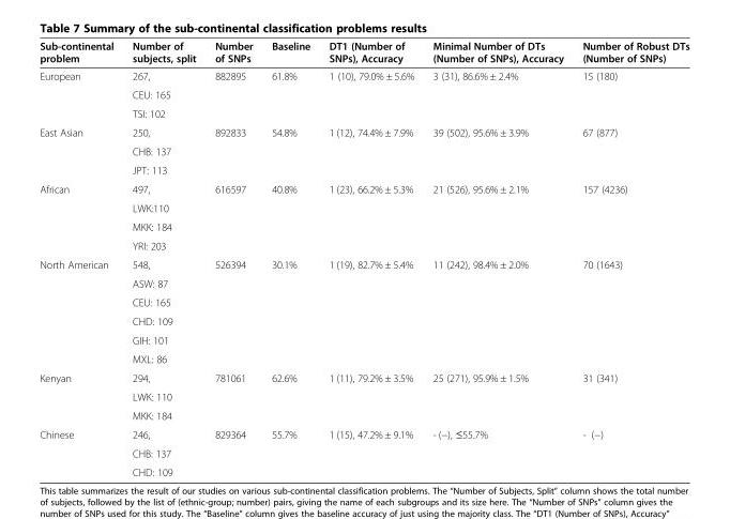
<table><thead><tr><td>Sub-continental problem</td><td>Number of subjects, split</td><td>Number of SNPs</td><td>Baseline</td><td>DT1 (Number of SNPs), Accuracy</td><td>Minimal Number of DTs (Number of SNPs), Accuracy</td><td>Number of Robust DTs (Number of SNPs)</td></tr></thead><tbody><tr><td rowspan="3">European</td><td>267,</td><td rowspan="3">882895</td><td rowspan="3">61.8%</td><td rowspan="3">1 (10), 79.0% ± 5.6%</td><td rowspan="3">3 (31), 86.6% ± 2.4%</td><td rowspan="3">15 (180)</td></tr><tr><td>CEU: 165</td></tr><tr><td>TSI: 102</td></tr><tr><td rowspan="3">East Asian</td><td>250,</td><td rowspan="3">892833</td><td rowspan="3">54.8%</td><td rowspan="3">1 (12), 74.4% ± 7.9%</td><td rowspan="3">39 (502), 95.6% ± 3.9%</td><td rowspan="3">67 (877)</td></tr><tr><td>CHB: 137</td></tr><tr><td>JPT: 113</td></tr><tr><td rowspan="4">African</td><td>497,</td><td rowspan="4">616597</td><td rowspan="4">40.8%</td><td rowspan="4">1 (23), 66.2% ± 5.3%</td><td rowspan="4">21 (526), 95.6% ± 2.1%</td><td rowspan="4">157 (4236)</td></tr><tr><td>LWK:110</td></tr><tr><td>MKK: 184</td></tr><tr><td>YRI: 203</td></tr><tr><td rowspan="6">North American</td><td>548,</td><td rowspan="6">526394</td><td rowspan="6">30.1%</td><td rowspan="6">1 (19), 82.7% ± 5.4%</td><td rowspan="6">11 (242), 98.4% ± 2.0%</td><td rowspan="6">70 (1643)</td></tr><tr><td>ASW: 87</td></tr><tr><td>CEU: 165</td></tr><tr><td>CHD: 109</td></tr><tr><td>GIH: 101</td></tr><tr><td>MXL: 86</td></tr><tr><td rowspan="3">Kenyan</td><td>294,</td><td rowspan="3">781061</td><td rowspan="3">62.6%</td><td rowspan="3">1 (11), 79.2% ± 3.5%</td><td rowspan="3">25 (271), 95.9% ± 1.5%</td><td rowspan="3">31 (341)</td></tr><tr><td>LWK: 110</td></tr><tr><td>MKK: 184</td></tr><tr><td rowspan="3">Chinese</td><td>246,</td><td rowspan="2">829364</td><td rowspan="2">55.7%</td><td rowspan="2">1 (15), 47.2% ± 9.1%</td><td rowspan="2">- (−), ≤55.7%</td><td rowspan="2">- (−)</td></tr><tr><td>CHB: 137</td></tr><tr><td>CHD: 109</td><td></td><td></td><td></td><td></td><td></td></tr></tbody></table>